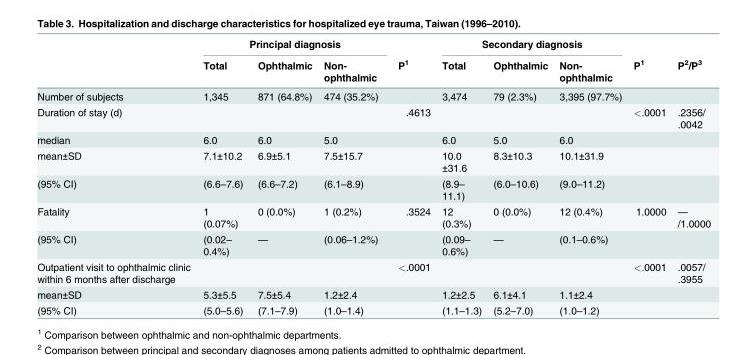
<table><thead><tr><td rowspan="2"></td><td colspan="3">Principal diagnosis</td><td rowspan="2">P<sup>1</sup></td><td colspan="3">Secondary diagnosis</td><td rowspan="2">P<sup>1</sup></td><td rowspan="2">P<sup>2</sup>/P<sup>3</sup></td></tr><tr><td>Total</td><td>Ophthalmic</td><td>Non- ophthalmic</td><td>Total</td><td>Ophthalmic</td><td>Non- ophthalmic</td></tr></thead><tbody><tr><td>Number of subjects</td><td>1,345</td><td>871 (64.8%)</td><td>474 (35.2%)</td><td></td><td>3,474</td><td>79 (2.3%)</td><td>3,395 (97.7%)</td><td></td><td></td></tr><tr><td>Duration of stay (d)</td><td></td><td></td><td></td><td>.4613</td><td></td><td></td><td></td><td>&lt;.0001</td><td>.2356/ .0042</td></tr><tr><td>median</td><td>6.0</td><td>6.0</td><td>5.0</td><td></td><td>6.0</td><td>5.0</td><td>6.0</td><td></td><td></td></tr><tr><td>mean±SD</td><td>7.1±10.2</td><td>6.9±5.1</td><td>7.5±15.7</td><td></td><td>10.0 ±31.6</td><td>8.3±10.3</td><td>10.1±31.9</td><td></td><td></td></tr><tr><td>(95% CI)</td><td>(6.6–7.6)</td><td>(6.6–7.2)</td><td>(6.1–8.9)</td><td></td><td>(8.9– 11.1)</td><td>(6.0–10.6)</td><td>(9.0–11.2)</td><td></td><td></td></tr><tr><td>Fatality</td><td>1 (0.07%)</td><td>0 (0.0%)</td><td>1 (0.2%)</td><td>.3524</td><td>12 (0.3%)</td><td>0 (0.0%)</td><td>12 (0.4%)</td><td>1.0000</td><td>— /1.0000</td></tr><tr><td>(95% CI)</td><td>(0.02– 0.4%)</td><td>—</td><td>(0.06–1.2%)</td><td></td><td>(0.09– 0.6%)</td><td>—</td><td>(0.1–0.6%)</td><td></td><td></td></tr><tr><td>Outpatient visit to ophthalmic clinic within 6 months after discharge</td><td></td><td></td><td></td><td>&lt;.0001</td><td></td><td></td><td></td><td>&lt;.0001</td><td>.0057/ .3955</td></tr><tr><td>mean±SD</td><td>5.3±5.5</td><td>7.5±5.4</td><td>1.2±2.4</td><td></td><td>1.2±2.5</td><td>6.1±4.1</td><td>1.1±2.4</td><td></td><td></td></tr><tr><td>(95% CI)</td><td>(5.0–5.6)</td><td>(7.1–7.9)</td><td>(1.0–1.4)</td><td></td><td>(1.1–1.3)</td><td>(5.2–7.0)</td><td>(1.0–1.2)</td><td></td><td></td></tr></tbody></table>